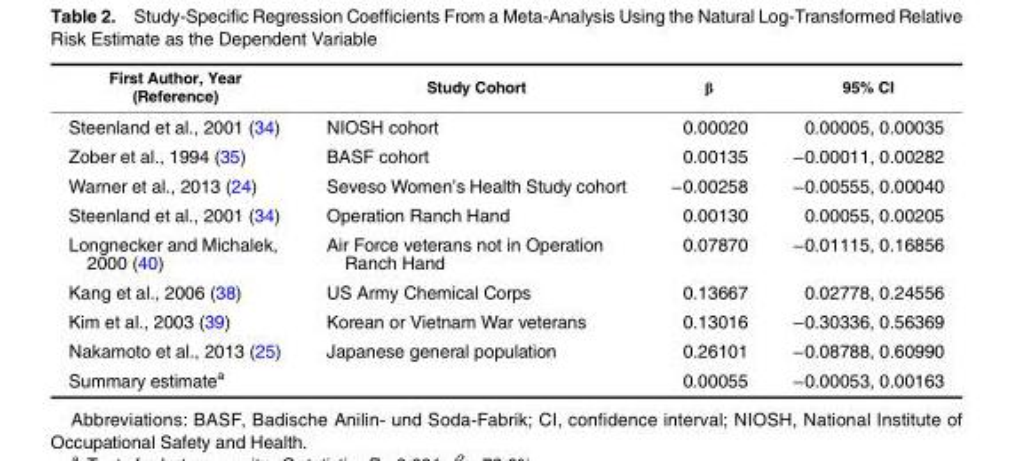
<table><thead><tr><td>First Author, Year (Reference)</td><td>Study Cohort</td><td>β</td><td>95% CI</td></tr></thead><tbody><tr><td>Steenland et al., 2001 (34)</td><td>NIOSH cohort</td><td>0.00020</td><td>0.00005, 0.00035</td></tr><tr><td>Zober et al., 1994 (35)</td><td>BASF cohort</td><td>0.00135</td><td>−0.00011, 0.00282</td></tr><tr><td>Warner et al., 2013 (24)</td><td>Seveso Women’s Health Study cohort</td><td>−0.00258</td><td>−0.00555, 0.00040</td></tr><tr><td>Steenland et al., 2001 (34)</td><td>Operation Ranch Hand</td><td>0.00130</td><td>0.00055, 0.00205</td></tr><tr><td>Longnecker and Michalek, 2000 (40)</td><td>Air Force veterans not in Operation Ranch Hand</td><td>0.07870</td><td>−0.01115, 0.16856</td></tr><tr><td>Kang et al., 2006 (38)</td><td>US Army Chemical Corps</td><td>0.13667</td><td>0.02778, 0.24556</td></tr><tr><td>Kim et al., 2003 (39)</td><td>Korean or Vietnam War veterans</td><td>0.13016</td><td>−0.30336, 0.56369</td></tr><tr><td>Nakamoto et al., 2013 (25)</td><td>Japanese general population</td><td>0.26101</td><td>−0.08788, 0.60990</td></tr><tr><td>Summary estimate<sup>a</sup></td><td></td><td>0.00055</td><td>−0.00053, 0.00163</td></tr></tbody></table>